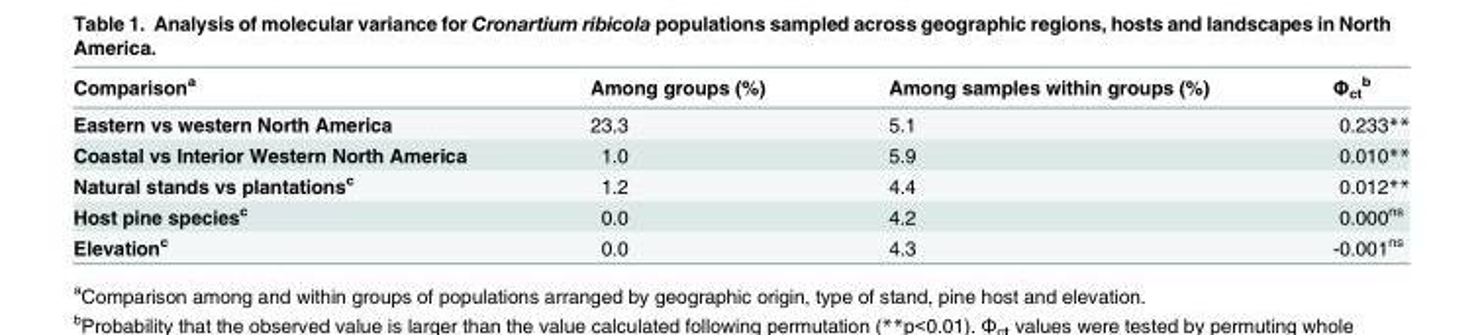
<table><thead><tr><td>Comparison<sup>a</sup></td><td>Among groups (%)</td><td>Among samples within groups (%)</td><td>Φ<sub>ct</sub> <sup>b</sup></td></tr></thead><tbody><tr><td>Eastern vs western North America</td><td>23.3</td><td>5.1</td><td>0.233**</td></tr><tr><td>Coastal vs Interior Western North America</td><td>1.0</td><td>5.9</td><td>0.010**</td></tr><tr><td>Natural stands vs plantations<sup>c</sup></td><td>1.2</td><td>4.4</td><td>0.012**</td></tr><tr><td>Host pine species<sup>c</sup></td><td>0.0</td><td>4.2</td><td>0.000<sup>ns</sup></td></tr><tr><td>Elevation<sup>c</sup></td><td>0.0</td><td>4.3</td><td>-0.001<sup>ns</sup></td></tr></tbody></table>